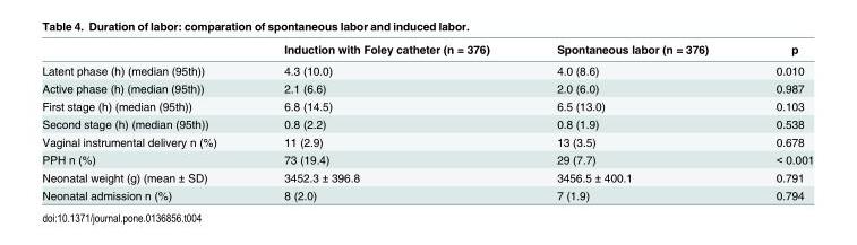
<table><thead><tr><td></td><td>Induction with Foley catheter (n = 376)</td><td>Spontaneous labor (n = 376)</td><td>p</td></tr></thead><tbody><tr><td>Latent phase (h) (median (95th))</td><td>4.3 (10.0)</td><td>4.0 (8.6)</td><td>0.010</td></tr><tr><td>Active phase (h) (median (95th))</td><td>2.1 (6.6)</td><td>2.0 (6.0)</td><td>0.987</td></tr><tr><td>First stage (h) (median (95th))</td><td>6.8 (14.5)</td><td>6.5 (13.0)</td><td>0.103</td></tr><tr><td>Second stage (h) (median (95th))</td><td>0.8 (2.2)</td><td>0.8 (1.9)</td><td>0.538</td></tr><tr><td>Vaginal instrumental delivery n (%)</td><td>11 (2.9)</td><td>13 (3.5)</td><td>0.678</td></tr><tr><td>PPH n (%)</td><td>73 (19.4)</td><td>29 (7.7)</td><td>&lt; 0.001</td></tr><tr><td>Neonatal weight (g) (mean ± SD)</td><td>3452.3 ± 396.8</td><td>3456.5 ± 400.1</td><td>0.791</td></tr><tr><td>Neonatal admission n (%)</td><td>8 (2.0)</td><td>7 (1.9)</td><td>0.794</td></tr></tbody></table>